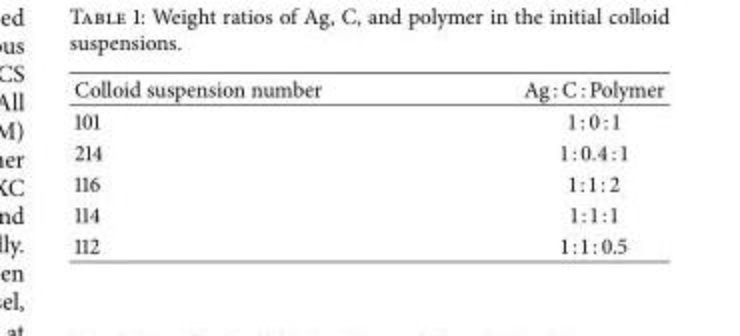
<table><thead><tr><td>Colloid suspension number</td><td>Ag : C : Polymer</td></tr></thead><tbody><tr><td>101</td><td>1 : 0 : 1</td></tr><tr><td>214</td><td>1 : 0.4 : 1</td></tr><tr><td>116</td><td>1 : 1 : 2</td></tr><tr><td>114</td><td>1 : 1 : 1</td></tr><tr><td>112</td><td>1 : 1 : 0.5</td></tr></tbody></table>